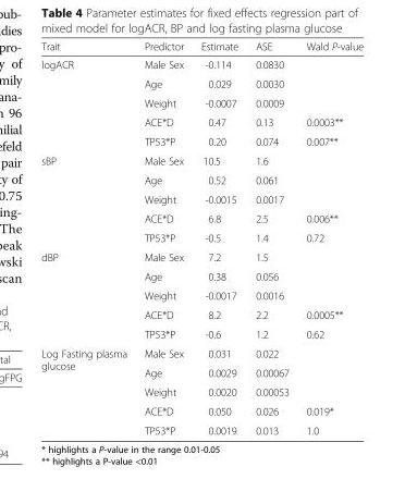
<table><thead><tr><td>Trait</td><td>Predictor</td><td>Estimate</td><td>ASE</td><td>Wald P-value</td></tr></thead><tbody><tr><td rowspan="5">logACR</td><td>Male Sex</td><td>-0.114</td><td>0.0830</td><td></td></tr><tr><td>Age</td><td>0.029</td><td>0.0030</td><td></td></tr><tr><td>Weight</td><td>-0.0007</td><td>0.0009</td><td></td></tr><tr><td>ACE*D</td><td>0.47</td><td>0.13</td><td>0.0003**</td></tr><tr><td>TP53*P</td><td>0.20</td><td>0.074</td><td>0.007**</td></tr><tr><td rowspan="5">sBP</td><td>Male Sex</td><td>10.5</td><td>1.6</td><td></td></tr><tr><td>Age</td><td>0.52</td><td>0.061</td><td></td></tr><tr><td>Weight</td><td>-0.0015</td><td>0.0017</td><td></td></tr><tr><td>ACE*D</td><td>6.8</td><td>2.5</td><td>0.006**</td></tr><tr><td>TP53*P</td><td>-0.5</td><td>1.4</td><td>0.72</td></tr><tr><td rowspan="5">dBP</td><td>Male Sex</td><td>7.2</td><td>1.5</td><td></td></tr><tr><td>Age</td><td>0.38</td><td>0.056</td><td></td></tr><tr><td>Weight</td><td>-0.0017</td><td>0.0016</td><td></td></tr><tr><td>ACE*D</td><td>8.2</td><td>2.2</td><td>0.0005**</td></tr><tr><td>TP53*P</td><td>-0.6</td><td>1.2</td><td>0.62</td></tr><tr><td rowspan="5">Log Fasting plasma glucose</td><td>Male Sex</td><td>0.031</td><td>0.022</td><td></td></tr><tr><td>Age</td><td>0.0029</td><td>0.00067</td><td></td></tr><tr><td>Weight</td><td>0.0020</td><td>0.00053</td><td></td></tr><tr><td>ACE*D</td><td>0.050</td><td>0.026</td><td>0.019*</td></tr><tr><td>TP53*P</td><td>0.0019</td><td>0.013</td><td>1.0</td></tr></tbody></table>